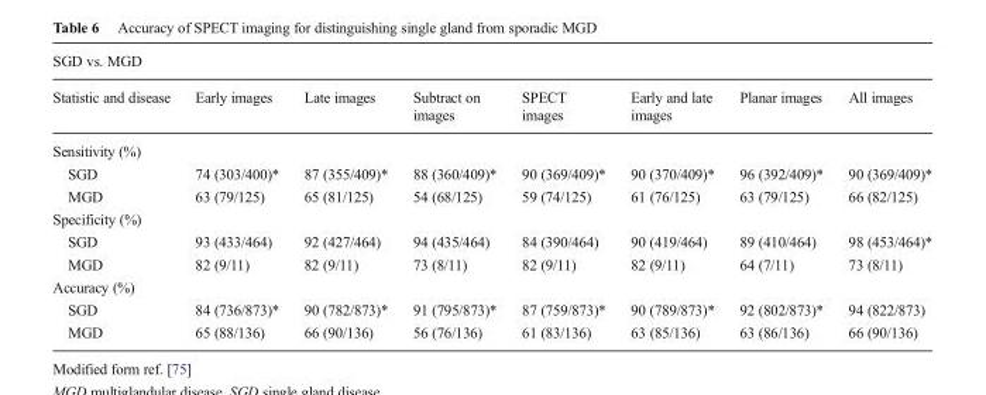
<table><thead><tr><td colspan="8">SGD vs. MGD</td></tr><tr><td>Statistic and disease</td><td>Early images</td><td>Late images</td><td>Subtract on images</td><td>SPECT images</td><td>Early and late images</td><td>Planar images</td><td>All images</td></tr></thead><tbody><tr><td colspan="8">Sensitivity (%)</td></tr><tr><td>SGD</td><td>74 (303/400)*</td><td>87 (355/409)*</td><td>88 (360/409)*</td><td>90 (369/409)*</td><td>90 (370/409)*</td><td>96 (392/409)*</td><td>90 (369/409)*</td></tr><tr><td>MGD</td><td>63 (79/125)</td><td>65 (81/125)</td><td>54 (68/125)</td><td>59 (74/125)</td><td>61 (76/125)</td><td>63 (79/125)</td><td>66 (82/125)</td></tr><tr><td colspan="8">Specificity (%)</td></tr><tr><td>SGD</td><td>93 (433/464)</td><td>92 (427/464)</td><td>94 (435/464)</td><td>84 (390/464)</td><td>90 (419/464)</td><td>89 (410/464)</td><td>98 (453/464)*</td></tr><tr><td>MGD</td><td>82 (9/11)</td><td>82 (9/11)</td><td>73 (8/11)</td><td>82 (9/11)</td><td>82 (9/11)</td><td>64 (7/11)</td><td>73 (8/11)</td></tr><tr><td colspan="8">Accuracy (%)</td></tr><tr><td>SGD</td><td>84 (736/873)*</td><td>90 (782/873)*</td><td>91 (795/873)*</td><td>87 (759/873)*</td><td>90 (789/873)*</td><td>92 (802/873)*</td><td>94 (822/873)</td></tr><tr><td>MGD</td><td>65 (88/136)</td><td>66 (90/136)</td><td>56 (76/136)</td><td>61 (83/136)</td><td>63 (85/136)</td><td>63 (86/136)</td><td>66 (90/136)</td></tr></tbody></table>